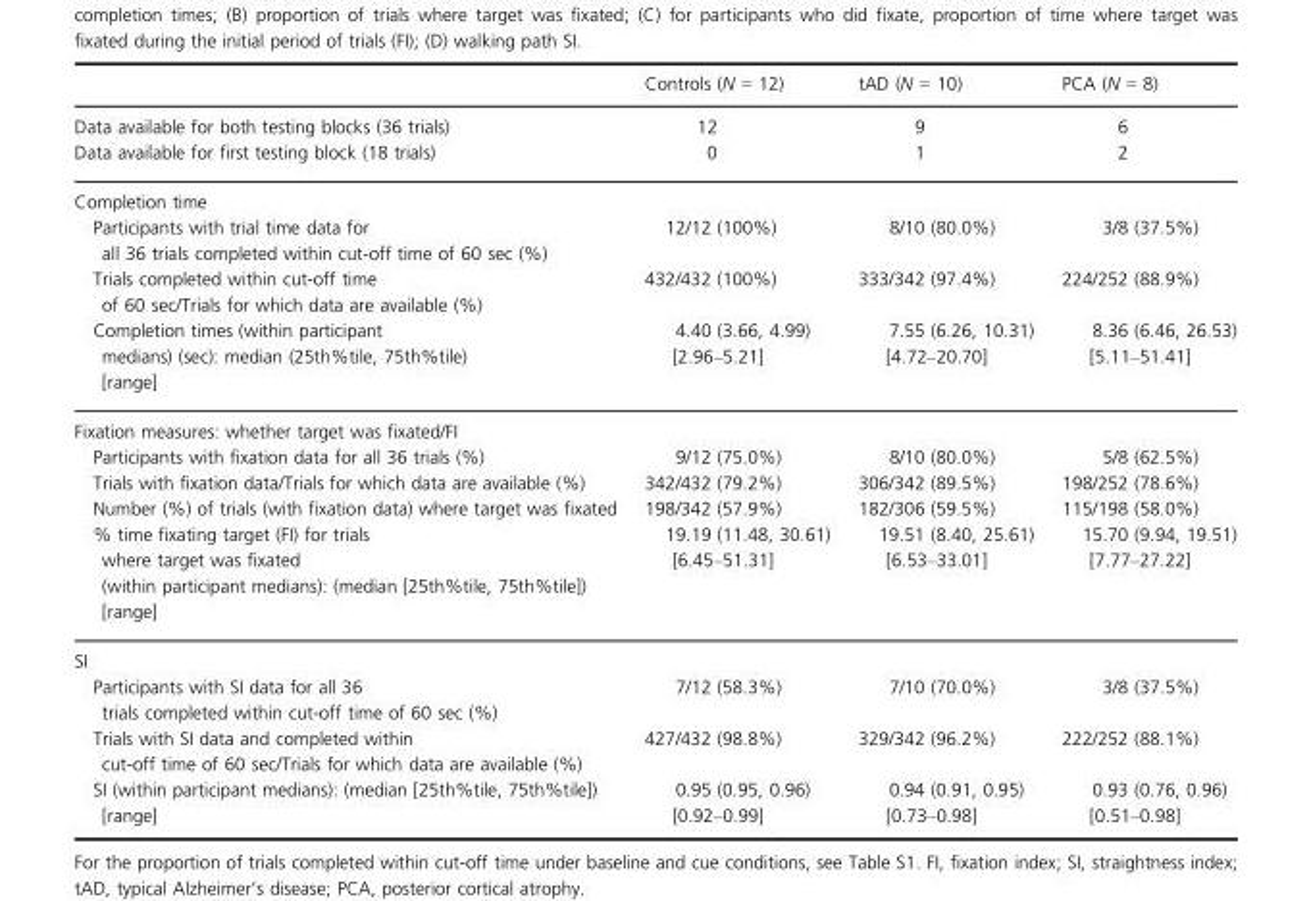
<table><thead><tr><td></td><td>Controls (N = 12)</td><td>tAD (N = 10)</td><td>PCA (N = 8)</td></tr></thead><tbody><tr><td>Data available for both testing blocks (36 trials)</td><td>12</td><td>9</td><td>6</td></tr><tr><td>Data available for first testing block (18 trials)</td><td>0</td><td>1</td><td>2</td></tr><tr><td colspan="4">Completion time</td></tr><tr><td>Participants with trial time data for all 36 trials completed within cut-off time of 60 sec (%)</td><td>12/12 (100%)</td><td>8/10 (80.0%)</td><td>3/8 (37.5%)</td></tr><tr><td>Trials completed within cut-off time of 60 sec/Trials for which data are available (%)</td><td>432/432 (100%)</td><td>333/342 (97.4%)</td><td>224/252 (88.9%)</td></tr><tr><td>Completion times (within participant medians) (sec): median (25th%tile, 75th%tile) [range]</td><td>4.40 (3.66, 4.99) [2.96–5.21]</td><td>7.55 (6.26, 10.31) [4.72–20.70]</td><td>8.36 (6.46, 26.53) [5.11–51.41]</td></tr><tr><td colspan="4">Fixation measures: whether target was fixated/FI</td></tr><tr><td>Participants with fixation data for all 36 trials (%)</td><td>9/12 (75.0%)</td><td>8/10 (80.0%)</td><td>5/8 (62.5%)</td></tr><tr><td>Trials with fixation data/Trials for which data are available (%)</td><td>342/432 (79.2%)</td><td>306/342 (89.5%)</td><td>198/252 (78.6%)</td></tr><tr><td>Number (%) of trials (with fixation data) where target was fixated</td><td>198/342 (57.9%)</td><td>182/306 (59.5%)</td><td>115/198 (58.0%)</td></tr><tr><td>% time fixating target (FI) for trials where target was fixated (within participant medians): (median [25th%tile, 75th%tile]) [range]</td><td>19.19 (11.48, 30.61) [6.45–51.31]</td><td>19.51 (8.40, 25.61) [6.53–33.01]</td><td>15.70 (9.94, 19.51) [7.77–27.22]</td></tr><tr><td colspan="4">SI</td></tr><tr><td>Participants with SI data for all 36 trials completed within cut-off time of 60 sec (%)</td><td>7/12 (58.3%)</td><td>7/10 (70.0%)</td><td>3/8 (37.5%)</td></tr><tr><td>Trials with SI data and completed within cut-off time of 60 sec/Trials for which data are available (%)</td><td>427/432 (98.8%)</td><td>329/342 (96.2%)</td><td>222/252 (88.1%)</td></tr><tr><td>SI (within participant medians): (median [25th%tile, 75th%tile]) [range]</td><td>0.95 (0.95, 0.96) [0.92–0.99]</td><td>0.94 (0.91, 0.95) [0.73–0.98]</td><td>0.93 (0.76, 0.96) [0.51–0.98]</td></tr></tbody></table>